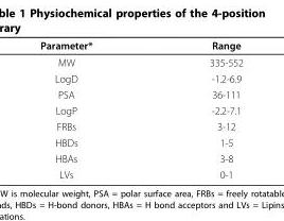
<table><thead><tr><td>Parameter*</td><td>Range</td></tr></thead><tbody><tr><td>MW</td><td>335-552</td></tr><tr><td>LogD</td><td>-1.2-6.9</td></tr><tr><td>PSA</td><td>36-111</td></tr><tr><td>LogP</td><td>-2.2-7.1</td></tr><tr><td>FRBs</td><td>3-12</td></tr><tr><td>HBDs</td><td>1-5</td></tr><tr><td>HBAs</td><td>3-8</td></tr><tr><td>LVs</td><td>0-1</td></tr></tbody></table>